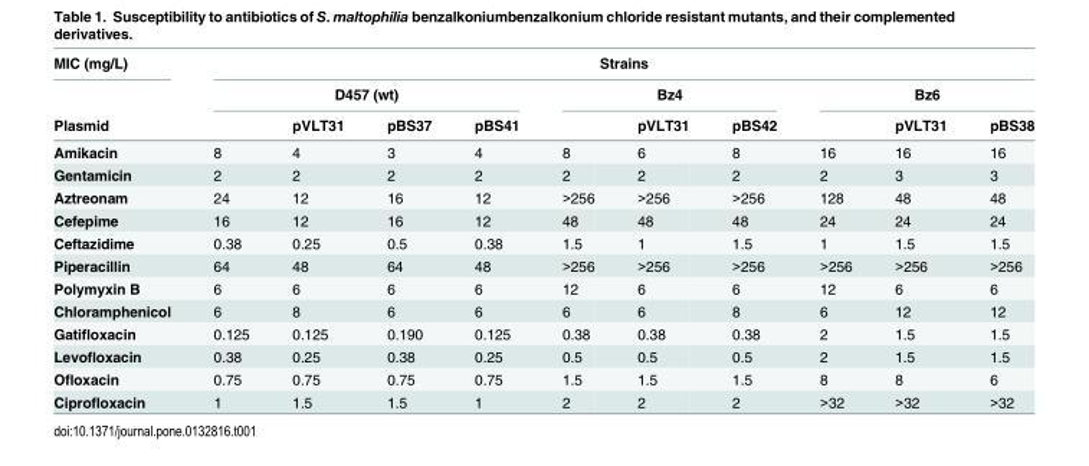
<table><thead><tr><td rowspan="3">MIC (mg/L) Plasmid</td><td colspan="10">Strains</td></tr><tr><td colspan="4">D457 (wt)</td><td colspan="3">Bz4</td><td colspan="3">Bz6</td></tr><tr><td></td><td>pVLT31</td><td>pBS37</td><td>pBS41</td><td></td><td>pVLT31</td><td>pBS42</td><td></td><td>pVLT31</td><td>pBS38</td></tr></thead><tbody><tr><td>Amikacin</td><td>8</td><td>4</td><td>3</td><td>4</td><td>8</td><td>6</td><td>8</td><td>16</td><td>16</td><td>16</td></tr><tr><td>Gentamicin</td><td>2</td><td>2</td><td>2</td><td>2</td><td>2</td><td>2</td><td>2</td><td>2</td><td>3</td><td>3</td></tr><tr><td>Aztreonam</td><td>24</td><td>12</td><td>16</td><td>12</td><td>&gt;256</td><td>&gt;256</td><td>&gt;256</td><td>128</td><td>48</td><td>48</td></tr><tr><td>Cefepime</td><td>16</td><td>12</td><td>16</td><td>12</td><td>48</td><td>48</td><td>48</td><td>24</td><td>24</td><td>24</td></tr><tr><td>Ceftazidime</td><td>0.38</td><td>0.25</td><td>0.5</td><td>0.38</td><td>1.5</td><td>1</td><td>1.5</td><td>1</td><td>1.5</td><td>1.5</td></tr><tr><td>Piperacillin</td><td>64</td><td>48</td><td>64</td><td>48</td><td>&gt;256</td><td>&gt;256</td><td>&gt;256</td><td>&gt;256</td><td>&gt;256</td><td>&gt;256</td></tr><tr><td>Polymyxin B</td><td>6</td><td>6</td><td>6</td><td>6</td><td>12</td><td>6</td><td>6</td><td>12</td><td>6</td><td>6</td></tr><tr><td>Chloramphenicol</td><td>6</td><td>8</td><td>6</td><td>6</td><td>6</td><td>6</td><td>8</td><td>6</td><td>12</td><td>12</td></tr><tr><td>Gatifloxacin</td><td>0.125</td><td>0.125</td><td>0.190</td><td>0.125</td><td>0.38</td><td>0.38</td><td>0.38</td><td>2</td><td>1.5</td><td>1.5</td></tr><tr><td>Levofloxacin</td><td>0.38</td><td>0.25</td><td>0.38</td><td>0.25</td><td>0.5</td><td>0.5</td><td>0.5</td><td>2</td><td>1.5</td><td>1.5</td></tr><tr><td>Ofloxacin</td><td>0.75</td><td>0.75</td><td>0.75</td><td>0.75</td><td>1.5</td><td>1.5</td><td>1.5</td><td>8</td><td>8</td><td>6</td></tr><tr><td>Ciprofloxacin</td><td>1</td><td>1.5</td><td>1.5</td><td>1</td><td>2</td><td>2</td><td>2</td><td>&gt;32</td><td>&gt;32</td><td>&gt;32</td></tr></tbody></table>